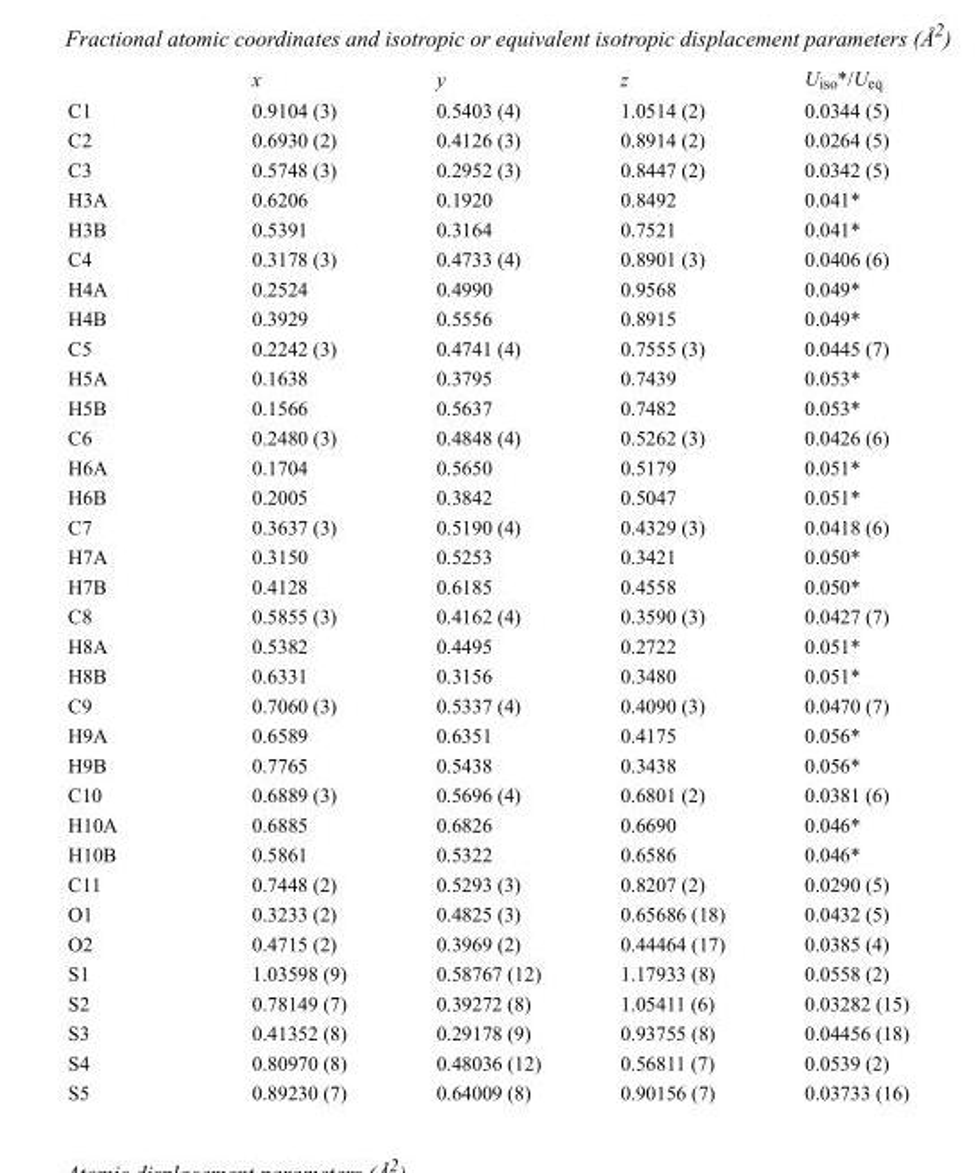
<table><thead><tr><td></td><td>x</td><td>y</td><td>z</td><td>U<sub>iso</sub>*/U<sub>eq</sub></td></tr></thead><tbody><tr><td>C1</td><td>0.9104 (3)</td><td>0.5403 (4)</td><td>1.0514 (2)</td><td>0.0344 (5)</td></tr><tr><td>C2</td><td>0.6930 (2)</td><td>0.4126 (3)</td><td>0.8914 (2)</td><td>0.0264 (5)</td></tr><tr><td>C3</td><td>0.5748 (3)</td><td>0.2952 (3)</td><td>0.8447 (2)</td><td>0.0342 (5)</td></tr><tr><td>H3A</td><td>0.6206</td><td>0.1920</td><td>0.8492</td><td>0.041*</td></tr><tr><td>H3B</td><td>0.5391</td><td>0.3164</td><td>0.7521</td><td>0.041*</td></tr><tr><td>C4</td><td>0.3178 (3)</td><td>0.4733 (4)</td><td>0.8901 (3)</td><td>0.0406 (6)</td></tr><tr><td>H4A</td><td>0.2524</td><td>0.4990</td><td>0.9568</td><td>0.049*</td></tr><tr><td>H4B</td><td>0.3929</td><td>0.5556</td><td>0.8915</td><td>0.049*</td></tr><tr><td>C5</td><td>0.2242 (3)</td><td>0.4741 (4)</td><td>0.7555 (3)</td><td>0.0445 (7)</td></tr><tr><td>H5A</td><td>0.1638</td><td>0.3795</td><td>0.7439</td><td>0.053*</td></tr><tr><td>H5B</td><td>0.1566</td><td>0.5637</td><td>0.7482</td><td>0.053*</td></tr><tr><td>C6</td><td>0.2480 (3)</td><td>0.4848 (4)</td><td>0.5262 (3)</td><td>0.0426 (6)</td></tr><tr><td>H6A</td><td>0.1704</td><td>0.5650</td><td>0.5179</td><td>0.051*</td></tr><tr><td>H6B</td><td>0.2005</td><td>0.3842</td><td>0.5047</td><td>0.051*</td></tr><tr><td>C7</td><td>0.3637 (3)</td><td>0.5190 (4)</td><td>0.4329 (3)</td><td>0.0418 (6)</td></tr><tr><td>H7A</td><td>0.3150</td><td>0.5253</td><td>0.3421</td><td>0.050*</td></tr><tr><td>H7B</td><td>0.4128</td><td>0.6185</td><td>0.4558</td><td>0.050*</td></tr><tr><td>C8</td><td>0.5855 (3)</td><td>0.4162 (4)</td><td>0.3590 (3)</td><td>0.0427 (7)</td></tr><tr><td>H8A</td><td>0.5382</td><td>0.4495</td><td>0.2722</td><td>0.051*</td></tr><tr><td>H8B</td><td>0.6331</td><td>0.3156</td><td>0.3480</td><td>0.051*</td></tr><tr><td>C9</td><td>0.7060 (3)</td><td>0.5337 (4)</td><td>0.4090 (3)</td><td>0.0470 (7)</td></tr><tr><td>H9A</td><td>0.6589</td><td>0.6351</td><td>0.4175</td><td>0.056*</td></tr><tr><td>H9B</td><td>0.7765</td><td>0.5438</td><td>0.3438</td><td>0.056*</td></tr><tr><td>C10</td><td>0.6889 (3)</td><td>0.5696 (4)</td><td>0.6801 (2)</td><td>0.0381 (6)</td></tr><tr><td>H10A</td><td>0.6885</td><td>0.6826</td><td>0.6690</td><td>0.046*</td></tr><tr><td>H10B</td><td>0.5861</td><td>0.5322</td><td>0.6586</td><td>0.046*</td></tr><tr><td>C11</td><td>0.7448 (2)</td><td>0.5293 (3)</td><td>0.8207 (2)</td><td>0.0290 (5)</td></tr><tr><td>O1</td><td>0.3233 (2)</td><td>0.4825 (3)</td><td>0.65686 (18)</td><td>0.0432 (5)</td></tr><tr><td>O2</td><td>0.4715 (2)</td><td>0.3969 (2)</td><td>0.44464 (17)</td><td>0.0385 (4)</td></tr><tr><td>S1</td><td>1.03598 (9)</td><td>0.58767 (12)</td><td>1.17933 (8)</td><td>0.0558 (2)</td></tr><tr><td>S2</td><td>0.78149 (7)</td><td>0.39272 (8)</td><td>1.05411 (6)</td><td>0.03282 (15)</td></tr><tr><td>S3</td><td>0.41352 (8)</td><td>0.29178 (9)</td><td>0.93755 (8)</td><td>0.04456 (18)</td></tr><tr><td>S4</td><td>0.80970 (8)</td><td>0.48036 (12)</td><td>0.56811 (7)</td><td>0.0539 (2)</td></tr><tr><td>S5</td><td>0.89230 (7)</td><td>0.64009 (8)</td><td>0.90156 (7)</td><td>0.03733 (16)</td></tr></tbody></table>